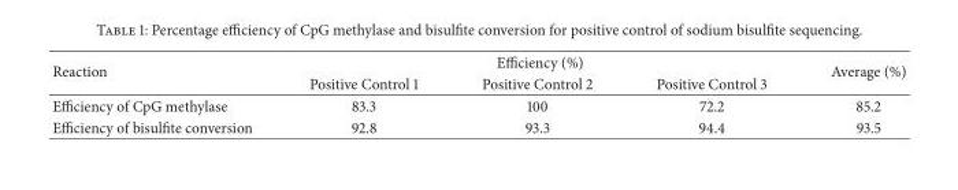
<table><thead><tr><td rowspan="2">Reaction</td><td colspan="3">Efficiency (%)</td><td rowspan="2">Average (%)</td></tr><tr><td>Positive Control 1</td><td>Positive Control 2</td><td>Positive Control 3</td></tr></thead><tbody><tr><td>Efficiency of CpG methylase</td><td>83.3</td><td>100</td><td>72.2</td><td>85.2</td></tr><tr><td>Efficiency of bisulfite conversion</td><td>92.8</td><td>93.3</td><td>94.4</td><td>93.5</td></tr></tbody></table>